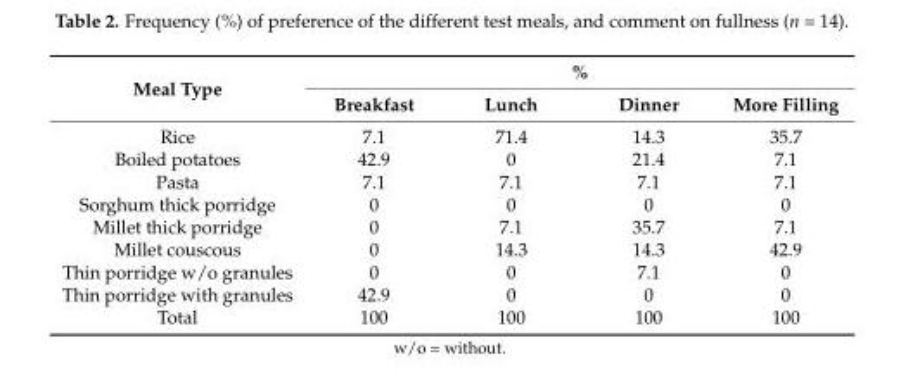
<table><thead><tr><td rowspan="2">Meal Type</td><td colspan="4">%</td></tr><tr><td>Breakfast</td><td>Lunch</td><td>Dinner</td><td>More Filling</td></tr></thead><tbody><tr><td>Rice</td><td>7.1</td><td>71.4</td><td>14.3</td><td>35.7</td></tr><tr><td>Boiled potatoes</td><td>42.9</td><td>0</td><td>21.4</td><td>7.1</td></tr><tr><td>Pasta</td><td>7.1</td><td>7.1</td><td>7.1</td><td>7.1</td></tr><tr><td>Sorghum thick porridge</td><td>0</td><td>0</td><td>0</td><td>0</td></tr><tr><td>Millet thick porridge</td><td>0</td><td>7.1</td><td>35.7</td><td>7.1</td></tr><tr><td>Millet couscous</td><td>0</td><td>14.3</td><td>14.3</td><td>42.9</td></tr><tr><td>Thin porridge w/o granules</td><td>0</td><td>0</td><td>7.1</td><td>0</td></tr><tr><td>Thin porridge with granules</td><td>42.9</td><td>0</td><td>0</td><td>0</td></tr><tr><td>Total</td><td>100</td><td>100</td><td>100</td><td>100</td></tr></tbody></table>